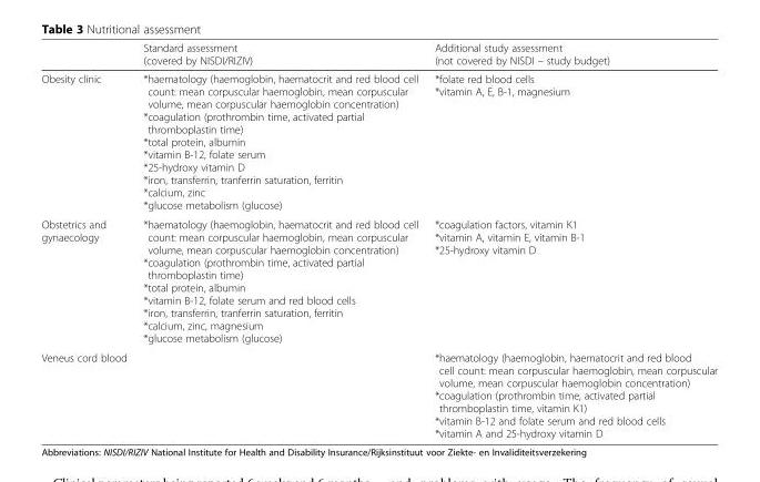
<table><thead><tr><td></td><td>Standard assessment (covered by NISDI/RIZIV)</td><td>Additional study assessment (not covered by NISDI – study budget)</td></tr></thead><tbody><tr><td>Obesity clinic</td><td>*haematology (haemoglobin, haematocrit and red blood cell count: mean corpuscular haemoglobin, mean corpuscular volume, mean corpuscular haemoglobin concentration) *coagulation (prothrombin time, activated partial thromboplastin time) *total protein, albumin *vitamin B-12, folate serum *25-hydroxy vitamin D *iron, transferrin, tranferrin saturation, ferritin *calcium, zinc *glucose metabolism (glucose)</td><td>*folate red blood cells *vitamin A, E, B-1, magnesium</td></tr><tr><td>Obstetrics and gynaecology</td><td>*haematology (haemoglobin, haematocrit and red blood cell count: mean corpuscular haemoglobin, mean corpuscular volume, mean corpuscular haemoglobin concentration) *coagulation (prothrombin time, activated partial thromboplastin time) *total protein, albumin *vitamin B-12, folate serum and red blood cells *iron, transferrin, tranferrin saturation, ferritin *calcium, zinc, magnesium *glucose metabolism (glucose)</td><td>*coagulation factors, vitamin K1 *vitamin A, vitamin E, vitamin B-1 *25-hydroxy vitamin D</td></tr><tr><td>Veneus cord blood</td><td></td><td>*haematology (haemoglobin, haematocrit and red blood cell count: mean corpuscular haemoglobin, mean corpuscular volume, mean corpuscular haemoglobin concentration) *coagulation (prothrombin time, activated partial thromboplastin time, vitamin K1) *vitamin B-12 and folate serum and red blood cells *vitamin A and 25-hydroxy vitamin D</td></tr></tbody></table>